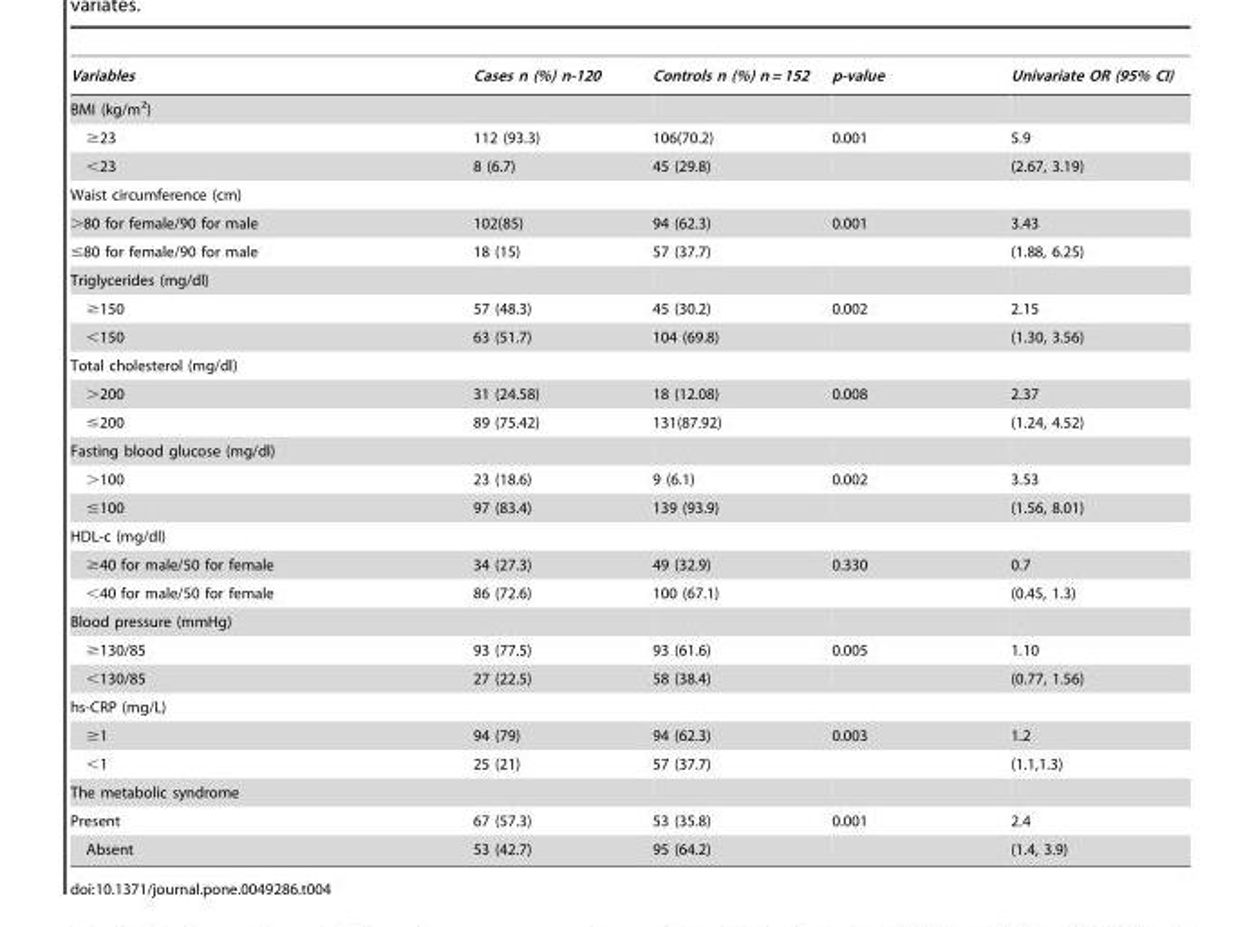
<table><thead><tr><td>Variables</td><td>Cases n (%) n-120</td><td>Controls n (%) n = 152</td><td>p-value</td><td>Univariate OR (95% CI)</td></tr></thead><tbody><tr><td colspan="5">BMI (kg/m<sup>2</sup>)</td></tr><tr><td>≥23</td><td>112 (93.3)</td><td>106(70.2)</td><td>0.001</td><td>5.9</td></tr><tr><td>&lt;23</td><td>8 (6.7)</td><td>45 (29.8)</td><td></td><td>(2.67, 3.19)</td></tr><tr><td colspan="5">Waist circumference (cm)</td></tr><tr><td>&gt;80 for female/90 for male</td><td>102(85)</td><td>94 (62.3)</td><td>0.001</td><td>3.43</td></tr><tr><td>≤80 for female/90 for male</td><td>18 (15)</td><td>57 (37.7)</td><td></td><td>(1.88, 6.25)</td></tr><tr><td colspan="5">Triglycerides (mg/dl)</td></tr><tr><td>≥150</td><td>57 (48.3)</td><td>45 (30.2)</td><td>0.002</td><td>2.15</td></tr><tr><td>&lt;150</td><td>63 (51.7)</td><td>104 (69.8)</td><td></td><td>(1.30, 3.56)</td></tr><tr><td colspan="5">Total cholesterol (mg/dl)</td></tr><tr><td>&gt;200</td><td>31 (24.58)</td><td>18 (12.08)</td><td>0.008</td><td>2.37</td></tr><tr><td>≤200</td><td>89 (75.42)</td><td>131(87.92)</td><td></td><td>(1.24, 4.52)</td></tr><tr><td colspan="5">Fasting blood glucose (mg/dl)</td></tr><tr><td>&gt;100</td><td>23 (18.6)</td><td>9 (6.1)</td><td>0.002</td><td>3.53</td></tr><tr><td>≤100</td><td>97 (83.4)</td><td>139 (93.9)</td><td></td><td>(1.56, 8.01)</td></tr><tr><td colspan="5">HDL-c (mg/dl)</td></tr><tr><td>≥40 for male/50 for female</td><td>34 (27.3)</td><td>49 (32.9)</td><td>0.330</td><td>0.7</td></tr><tr><td>&lt;40 for male/50 for female</td><td>86 (72.6)</td><td>100 (67.1)</td><td></td><td>(0.45, 1.3)</td></tr><tr><td colspan="5">Blood pressure (mmHg)</td></tr><tr><td>≥130/85</td><td>93 (77.5)</td><td>93 (61.6)</td><td>0.005</td><td>1.10</td></tr><tr><td>&lt;130/85</td><td>27 (22.5)</td><td>58 (38.4)</td><td></td><td>(0.77, 1.56)</td></tr><tr><td colspan="5">hs-CRP (mg/L)</td></tr><tr><td>≥1</td><td>94 (79)</td><td>94 (62.3)</td><td>0.003</td><td>1.2</td></tr><tr><td>&lt;1</td><td>25 (21)</td><td>57 (37.7)</td><td></td><td>(1.1,1.3)</td></tr><tr><td colspan="5">The metabolic syndrome</td></tr><tr><td>Present</td><td>67 (57.3)</td><td>53 (35.8)</td><td>0.001</td><td>2.4</td></tr><tr><td>Absent</td><td>53 (42.7)</td><td>95 (64.2)</td><td></td><td>(1.4, 3.9)</td></tr></tbody></table>